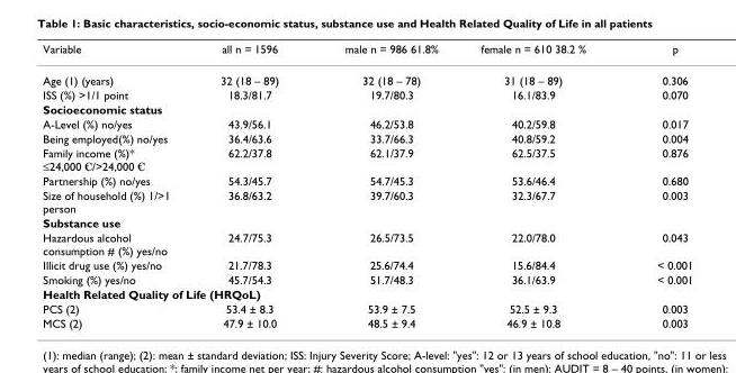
<table><thead><tr><td>Variable</td><td>all n = 1596</td><td>male n = 986 61.8%</td><td>female n = 610 38.2 %</td><td>p</td></tr></thead><tbody><tr><td>Age (1) (years)</td><td>32 (18 – 89)</td><td>32 (18 – 78)</td><td>31 (18 – 89)</td><td>0.306</td></tr><tr><td>ISS (%) &gt;1/1 point</td><td>18.3/81.7</td><td>19.7/80.3</td><td>16.1/83.9</td><td>0.070</td></tr><tr><td colspan="5">Socioeconomic status</td></tr><tr><td>A-Level (%) no/yes</td><td>43.9/56.1</td><td>46.2/53.8</td><td>40.2/59.8</td><td>0.017</td></tr><tr><td>Being employed(%) no/yes</td><td>36.4/63.6</td><td>33.7/66.3</td><td>40.8/59.2</td><td>0.004</td></tr><tr><td>Family income (%)* ≤24,000 €/&gt;24,000 €</td><td>62.2/37.8</td><td>62.1/37.9</td><td>62.5/37.5</td><td>0.876</td></tr><tr><td>Partnership (%) no/yes</td><td>54.3/45.7</td><td>54.7/45.3</td><td>53.6/46.4</td><td>0.680</td></tr><tr><td>Size of household (%) 1/&gt;1 person</td><td>36.8/63.2</td><td>39.7/60.3</td><td>32.3/67.7</td><td>0.003</td></tr><tr><td colspan="5">Substance use</td></tr><tr><td>Hazardous alcohol consumption # (%) yes/no</td><td>24.7/75.3</td><td>26.5/73.5</td><td>22.0/78.0</td><td>0.043</td></tr><tr><td>Illicit drug use (%) yes/no</td><td>21.7/78.3</td><td>25.6/74.4</td><td>15.6/84.4</td><td>&lt; 0.001</td></tr><tr><td>Smoking (%) yes/no</td><td>45.7/54.3</td><td>51.7/48.3</td><td>36.1/63.9</td><td>&lt; 0.001</td></tr><tr><td colspan="5">Health Related Quality of Life (HRQoL)</td></tr><tr><td>PCS (2)</td><td>53.4 ± 8.3</td><td>53.9 ± 7.5</td><td>52.5 ± 9.3</td><td>0.003</td></tr><tr><td>MCS (2)</td><td>47.9 ± 10.0</td><td>48.5 ± 9.4</td><td>46.9 ± 10.8</td><td>0.003</td></tr></tbody></table>